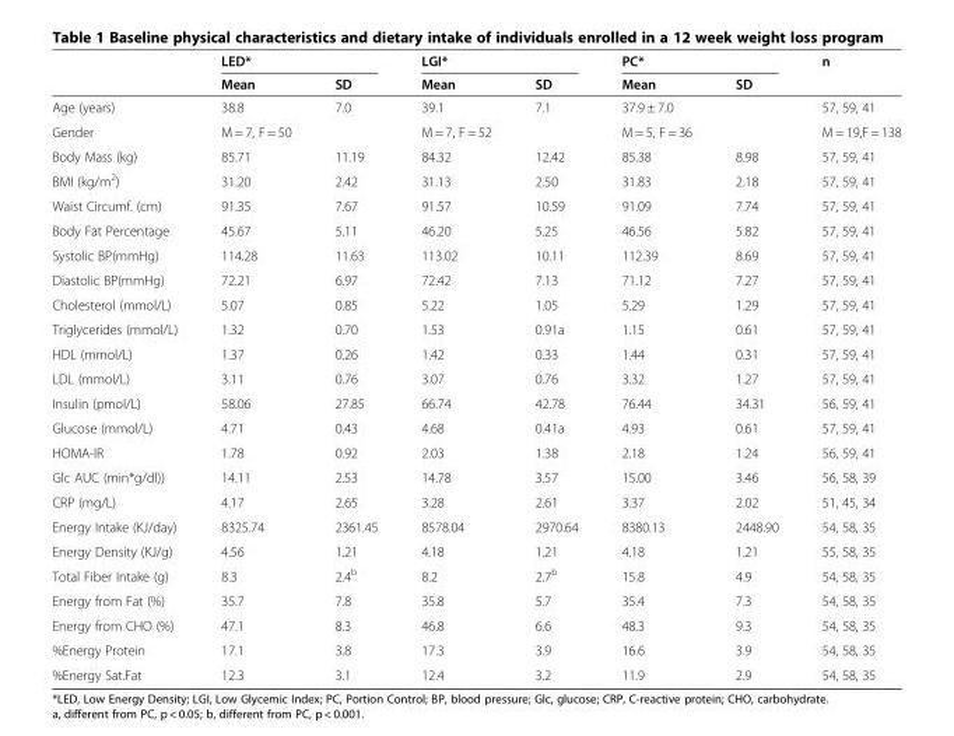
<table><thead><tr><td rowspan="2"></td><td rowspan="2">LED* Mean</td><td rowspan="2">SD</td><td rowspan="2">LGI* Mean</td><td rowspan="2">SD</td><td rowspan="2">PC* Mean</td><td rowspan="2">SD</td><td rowspan="2">n</td></tr><tr></tr></thead><tbody><tr><td>Age (years)</td><td>38.8</td><td>7.0</td><td>39.1</td><td>7.1</td><td>37.9 ± 7.0</td><td></td><td>57, 59, 41</td></tr><tr><td>Gender</td><td>M = 7, F = 50</td><td></td><td>M = 7, F = 52</td><td></td><td>M = 5, F = 36</td><td></td><td>M = 19,F = 138</td></tr><tr><td>Body Mass (kg)</td><td>85.71</td><td>11.19</td><td>84.32</td><td>12.42</td><td>85.38</td><td>8.98</td><td>57, 59, 41</td></tr><tr><td>BMI (kg/m<sup>2</sup>)</td><td>31.20</td><td>2.42</td><td>31.13</td><td>2.50</td><td>31.83</td><td>2.18</td><td>57, 59, 41</td></tr><tr><td>Waist Circumf. (cm)</td><td>91.35</td><td>7.67</td><td>91.57</td><td>10.59</td><td>91.09</td><td>7.74</td><td>57, 59, 41</td></tr><tr><td>Body Fat Percentage</td><td>45.67</td><td>5.11</td><td>46.20</td><td>5.25</td><td>46.56</td><td>5.82</td><td>57, 59, 41</td></tr><tr><td>Systolic BP(mmHg)</td><td>114.28</td><td>11.63</td><td>113.02</td><td>10.11</td><td>112.39</td><td>8.69</td><td>57, 59, 41</td></tr><tr><td>Diastolic BP(mmHg)</td><td>72.21</td><td>6.97</td><td>72.42</td><td>7.13</td><td>71.12</td><td>7.27</td><td>57, 59, 41</td></tr><tr><td>Cholesterol (mmol/L)</td><td>5.07</td><td>0.85</td><td>5.22</td><td>1.05</td><td>5.29</td><td>1.29</td><td>57, 59, 41</td></tr><tr><td>Triglycerides (mmol/L)</td><td>1.32</td><td>0.70</td><td>1.53</td><td>0.91a</td><td>1.15</td><td>0.61</td><td>57, 59, 41</td></tr><tr><td>HDL (mmol/L)</td><td>1.37</td><td>0.26</td><td>1.42</td><td>0.33</td><td>1.44</td><td>0.31</td><td>57, 59, 41</td></tr><tr><td>LDL (mmol/L)</td><td>3.11</td><td>0.76</td><td>3.07</td><td>0.76</td><td>3.32</td><td>1.27</td><td>57, 59, 41</td></tr><tr><td>Insulin (pmol/L)</td><td>58.06</td><td>27.85</td><td>66.74</td><td>42.78</td><td>76.44</td><td>34.31</td><td>56, 59, 41</td></tr><tr><td>Glucose (mmol/L)</td><td>4.71</td><td>0.43</td><td>4.68</td><td>0.41a</td><td>4.93</td><td>0.61</td><td>57, 59, 41</td></tr><tr><td>HOMA-IR</td><td>1.78</td><td>0.92</td><td>2.03</td><td>1.38</td><td>2.18</td><td>1.24</td><td>56, 59, 41</td></tr><tr><td>Glc AUC (min*g/dl))</td><td>14.11</td><td>2.53</td><td>14.78</td><td>3.57</td><td>15.00</td><td>3.46</td><td>56, 58, 39</td></tr><tr><td>CRP (mg/L)</td><td>4.17</td><td>2.65</td><td>3.28</td><td>2.61</td><td>3.37</td><td>2.02</td><td>51, 45, 34</td></tr><tr><td>Energy Intake (KJ/day)</td><td>8325.74</td><td>2361.45</td><td>8578.04</td><td>2970.64</td><td>8380.13</td><td>2448.90</td><td>54, 58, 35</td></tr><tr><td>Energy Density (KJ/g)</td><td>4.56</td><td>1.21</td><td>4.18</td><td>1.21</td><td>4.18</td><td>1.21</td><td>55, 58, 35</td></tr><tr><td>Total Fiber Intake (g)</td><td>8.3</td><td>2.4<sup>b</sup></td><td>8.2</td><td>2.7<sup>b</sup></td><td>15.8</td><td>4.9</td><td>54, 58, 35</td></tr><tr><td>Energy from Fat (%)</td><td>35.7</td><td>7.8</td><td>35.8</td><td>5.7</td><td>35.4</td><td>7.3</td><td>54, 58, 35</td></tr><tr><td>Energy from CHO (%)</td><td>47.1</td><td>8.3</td><td>46.8</td><td>6.6</td><td>48.3</td><td>9.3</td><td>54, 58, 35</td></tr><tr><td>%Energy Protein</td><td>17.1</td><td>3.8</td><td>17.3</td><td>3.9</td><td>16.6</td><td>3.9</td><td>54, 58, 35</td></tr><tr><td>%Energy Sat.Fat</td><td>12.3</td><td>3.1</td><td>12.4</td><td>3.2</td><td>11.9</td><td>2.9</td><td>54, 58, 35</td></tr></tbody></table>